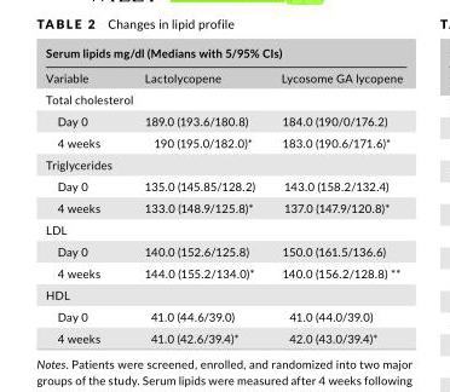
<table><thead><tr><td colspan="3">Serum lipids mg/dl (Medians with 5/95% CIs)</td></tr><tr><td>Variable</td><td>Lactolycopene</td><td>Lycosome GA lycopene</td></tr></thead><tbody><tr><td colspan="3">Total cholesterol</td></tr><tr><td>Day 0</td><td>189.0 (193.6/180.8)</td><td>184.0 (190/0/176.2)</td></tr><tr><td>4 weeks</td><td>190 (195.0/182.0)*</td><td>183.0 (190.6/171.6)*</td></tr><tr><td colspan="3">Triglycerides</td></tr><tr><td>Day 0</td><td>135.0 (145.85/128.2)</td><td>143.0 (158.2/132.4)</td></tr><tr><td>4 weeks</td><td>133.0 (148.9/125.8)*</td><td>137.0 (147.9/120.8)*</td></tr><tr><td colspan="3">LDL</td></tr><tr><td>Day 0</td><td>140.0 (152.6/125.8)</td><td>150.0 (161.5/136.6)</td></tr><tr><td>4 weeks</td><td>144.0 (155.2/134.0)*</td><td>140.0 (156.2/128.8) **</td></tr><tr><td colspan="3">HDL</td></tr><tr><td>Day 0</td><td>41.0 (44.6/39.0)</td><td>41.0 (44.0/39.0)</td></tr><tr><td>4 weeks</td><td>41.0 (42.6/39.4)*</td><td>42.0 (43.0/39.4)*</td></tr></tbody></table>